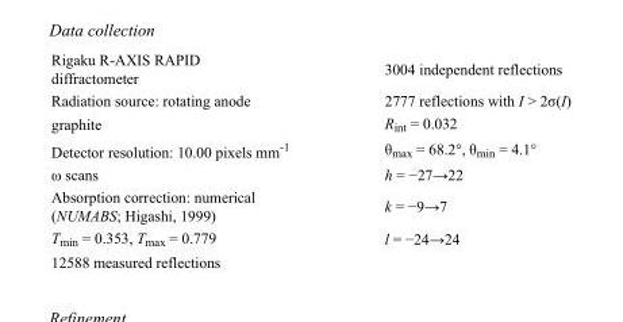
<table><tbody><tr><td>Rigaku R-AXIS RAPID diffractometer</td><td>3004 independent reflections</td></tr><tr><td>Radiation source: rotating anode</td><td>2777 reflections with I &gt; 2σ(I)</td></tr><tr><td>graphite</td><td>R<sub>int</sub> = 0.032</td></tr><tr><td>Detector resolution: 10.00 pixels mm<sup>-1</sup></td><td>θ<sub>max</sub> = 68.2°, θ<sub>min</sub> = 4.1°</td></tr><tr><td>ω scans</td><td>h = −27→22</td></tr><tr><td>Absorption correction: numerical (NUMABS; Higashi, 1999)</td><td>k = −9→7</td></tr><tr><td>T<sub>min</sub> = 0.353, T<sub>max</sub> = 0.779</td><td>l = −24→24</td></tr><tr><td>12588 measured reflections</td><td></td></tr></tbody></table>